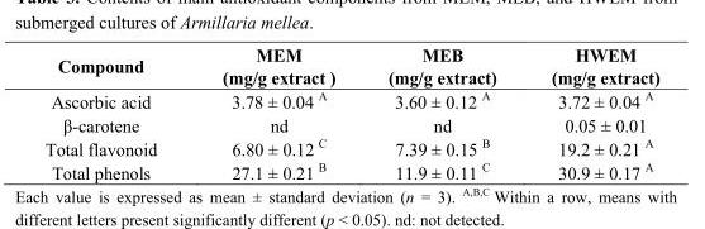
<table><thead><tr><td>Compound</td><td>MEM (mg/g extract )</td><td>MEB (mg/g extract)</td><td>HWEM (mg/g extract)</td></tr></thead><tbody><tr><td>Ascorbic acid</td><td>3.78 ± 0.04 A</td><td>3.60 ± 0.12 A</td><td>3.72 ± 0.04 A</td></tr><tr><td>β-carotene</td><td>nd</td><td>nd</td><td>0.05 ± 0.01</td></tr><tr><td>Total flavonoid</td><td>6.80 ± 0.12 C</td><td>7.39 ± 0.15 B</td><td>19.2 ± 0.21 A</td></tr><tr><td>Total phenols</td><td>27.1 ± 0.21 B</td><td>11.9 ± 0.11 C</td><td>30.9 ± 0.17 A</td></tr></tbody></table>